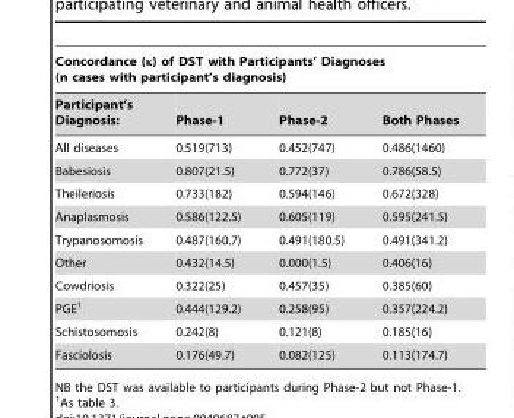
<table><thead><tr><td colspan="4">Concordance (κ) of DST with Participants’ Diagnoses (n cases with participant’s diagnosis)</td></tr><tr><td>Participant’s Diagnosis:</td><td>Phase-1</td><td>Phase-2</td><td>Both Phases</td></tr></thead><tbody><tr><td>All diseases</td><td>0.519(713)</td><td>0.452(747)</td><td>0.486(1460)</td></tr><tr><td>Babesiosis</td><td>0.807(21.5)</td><td>0.772(37)</td><td>0.786(58.5)</td></tr><tr><td>Theileriosis</td><td>0.733(182)</td><td>0.594(146)</td><td>0.672(328)</td></tr><tr><td>Anaplasmosis</td><td>0.586(122.5)</td><td>0.605(119)</td><td>0.595(241.5)</td></tr><tr><td>Trypanosomosis</td><td>0.487(160.7)</td><td>0.491(180.5)</td><td>0.491(341.2)</td></tr><tr><td>Other</td><td>0.432(14.5)</td><td>0.000(1.5)</td><td>0.406(16)</td></tr><tr><td>Cowdriosis</td><td>0.322(25)</td><td>0.457(35)</td><td>0.385(60)</td></tr><tr><td>PGE<sup>1</sup></td><td>0.444(129.2)</td><td>0.258(95)</td><td>0.357(224.2)</td></tr><tr><td>Schistosomosis</td><td>0.242(8)</td><td>0.121(8)</td><td>0.185(16)</td></tr><tr><td>Fasciolosis</td><td>0.176(49.7)</td><td>0.082(125)</td><td>0.113(174.7)</td></tr></tbody></table>